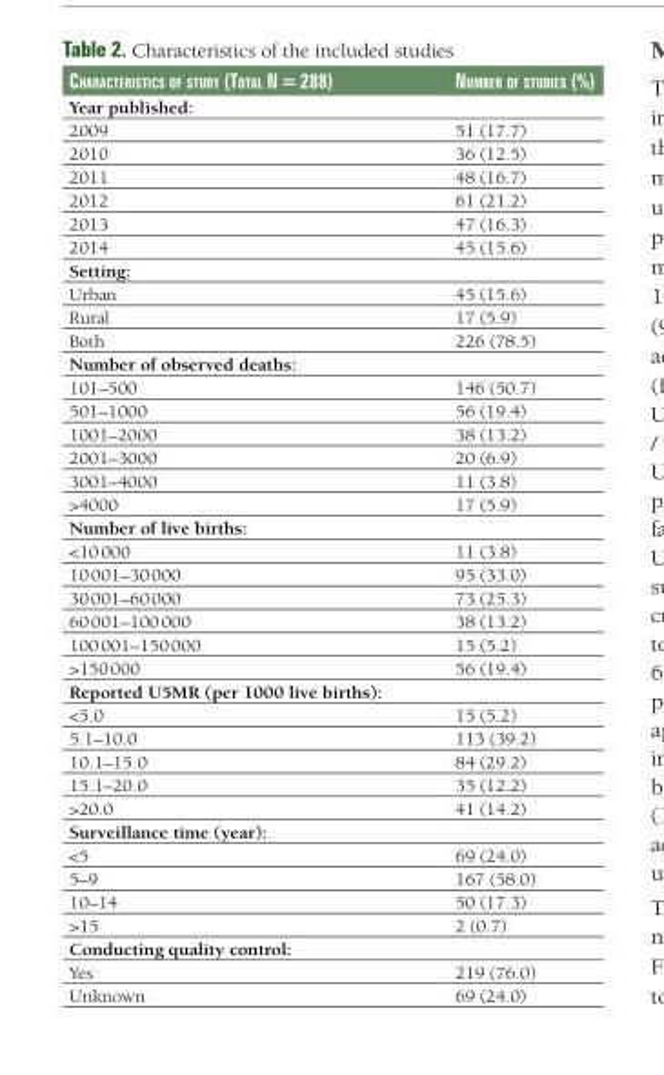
<table><thead><tr><td>CharaCteristiCs of study (total N = 288)</td><td>Number of studies (%)</td></tr></thead><tbody><tr><td colspan="2">Year published:</td></tr><tr><td>2009</td><td>51 (17.7)</td></tr><tr><td>2010</td><td>36 (12.5)</td></tr><tr><td>2011</td><td>48 (16.7)</td></tr><tr><td>2012</td><td>61 (21.2)</td></tr><tr><td>2013</td><td>47 (16.3)</td></tr><tr><td>2014</td><td>45 (15.6)</td></tr><tr><td colspan="2">Setting:</td></tr><tr><td>Urban</td><td>45 (15.6)</td></tr><tr><td>Rural</td><td>17 (5.9)</td></tr><tr><td>Both</td><td>226 (78.5)</td></tr><tr><td colspan="2">Number of observed deaths:</td></tr><tr><td>101–500</td><td>146 (50.7)</td></tr><tr><td>501–1000</td><td>56 (19.4)</td></tr><tr><td>1001–2000</td><td>38 (13.2)</td></tr><tr><td>2001–3000</td><td>20 (6.9)</td></tr><tr><td>3001–4000</td><td>11 (3.8)</td></tr><tr><td>&gt;4000</td><td>17 (5.9)</td></tr><tr><td colspan="2">Number of live births:</td></tr><tr><td>&lt;10 000</td><td>11 (3.8)</td></tr><tr><td>10 001–30 000</td><td>95 (33.0)</td></tr><tr><td>30 001–60 000</td><td>73 (25.3)</td></tr><tr><td>60 001–100 000</td><td>38 (13.2)</td></tr><tr><td>100 001–150 000</td><td>15 (5.2)</td></tr><tr><td>&gt;150 000</td><td>56 (19.4)</td></tr><tr><td colspan="2">Reported U5MR (per 1000 live births):</td></tr><tr><td>&lt;5.0</td><td>15 (5.2)</td></tr><tr><td>5.1–10.0</td><td>113 (39.2)</td></tr><tr><td>10.1–15.0</td><td>84 (29.2)</td></tr><tr><td>15.1–20.0</td><td>35 (12.2)</td></tr><tr><td>&gt;20.0</td><td>41 (14.2)</td></tr><tr><td colspan="2">Surveillance time (year):</td></tr><tr><td>&lt;5</td><td>69 (24.0)</td></tr><tr><td>5–9</td><td>167 (58.0)</td></tr><tr><td>10–14</td><td>50 (17.3)</td></tr><tr><td>&gt;15</td><td>2 (0.7)</td></tr><tr><td colspan="2">Conducting quality control:</td></tr><tr><td>Yes</td><td>219 (76.0)</td></tr><tr><td>Unknown</td><td>69 (24.0)</td></tr></tbody></table>